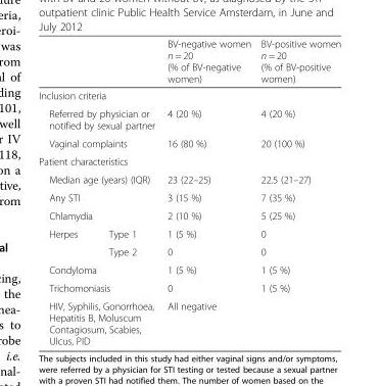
<table><thead><tr><td></td><td></td><td>BV-negative women n = 20 (% of BV-negative women)</td><td>BV-positive women n = 20 (% of BV-positive women)</td></tr></thead><tbody><tr><td colspan="4">Inclusion criteria</td></tr><tr><td colspan="2">Referred by physician or notified by sexual partner</td><td>4 (20 %)</td><td>4 (20 %)</td></tr><tr><td colspan="2">Vaginal complaints</td><td>16 (80 %)</td><td>20 (100 %)</td></tr><tr><td colspan="4">Patient characteristics</td></tr><tr><td colspan="2">Median age (years) (IQR)</td><td>23 (22–25)</td><td>22.5 (21–27)</td></tr><tr><td colspan="2">Any STI</td><td>3 (15 %)</td><td>7 (35 %)</td></tr><tr><td colspan="2">Chlamydia</td><td>2 (10 %)</td><td>5 (25 %)</td></tr><tr><td rowspan="2">Herpes</td><td>Type 1</td><td>1 (5 %)</td><td>0</td></tr><tr><td>Type 2</td><td>0</td><td>0</td></tr><tr><td colspan="2">Condyloma</td><td>1 (5 %)</td><td>1 (5 %)</td></tr><tr><td colspan="2">Trichomoniasis</td><td>0</td><td>1 (5 %)</td></tr><tr><td colspan="2">HIV, Syphilis, Gonorrhoea, Hepatitis B, Moluscum Contagiosum, Scabies, Ulcus, PID</td><td colspan="2">All negative</td></tr></tbody></table>